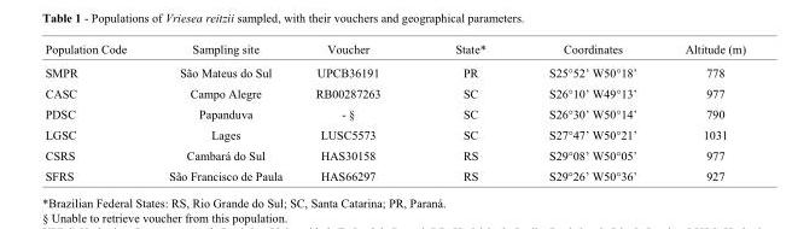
<table><thead><tr><td>Population Code</td><td>Sampling site</td><td>Voucher</td><td>State*</td><td>Coordinates</td><td>Altitude (m)</td></tr></thead><tbody><tr><td>SMPR</td><td>São Mateus do Sul</td><td>UPCB36191</td><td>PR</td><td>S25°52’ W50°18’</td><td>778</td></tr><tr><td>CASC</td><td>Campo Alegre</td><td>RB00287263</td><td>SC</td><td>S26°10’ W49°13’</td><td>977</td></tr><tr><td>PDSC</td><td>Papanduva</td><td>- §</td><td>SC</td><td>S26°30’ W50°14’</td><td>790</td></tr><tr><td>LGSC</td><td>Lages</td><td>LUSC5573</td><td>SC</td><td>S27°47’ W50°21’</td><td>1031</td></tr><tr><td>CSRS</td><td>Cambará do Sul</td><td>HAS30158</td><td>RS</td><td>S29°08’ W50°05’</td><td>977</td></tr><tr><td>SFRS</td><td>São Francisco de Paula</td><td>HAS66297</td><td>RS</td><td>S29°26’ W50°36’</td><td>927</td></tr></tbody></table>